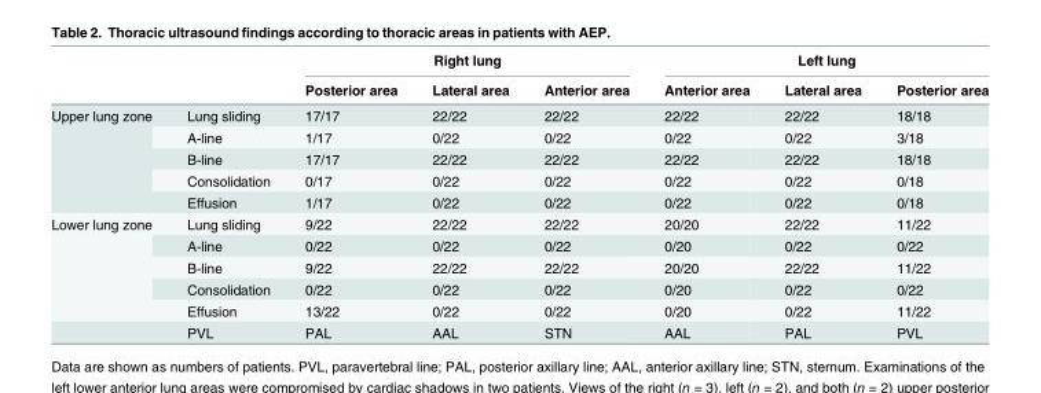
<table><thead><tr><td rowspan="2"></td><td rowspan="2"></td><td colspan="3">Right lung</td><td colspan="3">Left lung</td></tr><tr><td>Posterior area</td><td>Lateral area</td><td>Anterior area</td><td>Anterior area</td><td>Lateral area</td><td>Posterior area</td></tr></thead><tbody><tr><td rowspan="5">Upper lung zone</td><td>Lung sliding</td><td>17/17</td><td>22/22</td><td>22/22</td><td>22/22</td><td>22/22</td><td>18/18</td></tr><tr><td>A-line</td><td>1/17</td><td>0/22</td><td>0/22</td><td>0/22</td><td>0/22</td><td>3/18</td></tr><tr><td>B-line</td><td>17/17</td><td>22/22</td><td>22/22</td><td>22/22</td><td>22/22</td><td>18/18</td></tr><tr><td>Consolidation</td><td>0/17</td><td>0/22</td><td>0/22</td><td>0/22</td><td>0/22</td><td>0/18</td></tr><tr><td>Effusion</td><td>1/17</td><td>0/22</td><td>0/22</td><td>0/22</td><td>0/22</td><td>0/18</td></tr><tr><td rowspan="6">Lower lung zone</td><td>Lung sliding</td><td>9/22</td><td>22/22</td><td>22/22</td><td>20/20</td><td>22/22</td><td>11/22</td></tr><tr><td>A-line</td><td>0/22</td><td>0/22</td><td>0/22</td><td>0/20</td><td>0/22</td><td>0/22</td></tr><tr><td>B-line</td><td>9/22</td><td>22/22</td><td>22/22</td><td>20/20</td><td>22/22</td><td>11/22</td></tr><tr><td>Consolidation</td><td>0/22</td><td>0/22</td><td>0/22</td><td>0/20</td><td>0/22</td><td>0/22</td></tr><tr><td>Effusion</td><td>13/22</td><td>0/22</td><td>0/22</td><td>0/20</td><td>0/22</td><td>11/22</td></tr><tr><td>PVL</td><td>PAL</td><td>AAL</td><td>STN</td><td>AAL</td><td>PAL</td><td>PVL</td></tr></tbody></table>